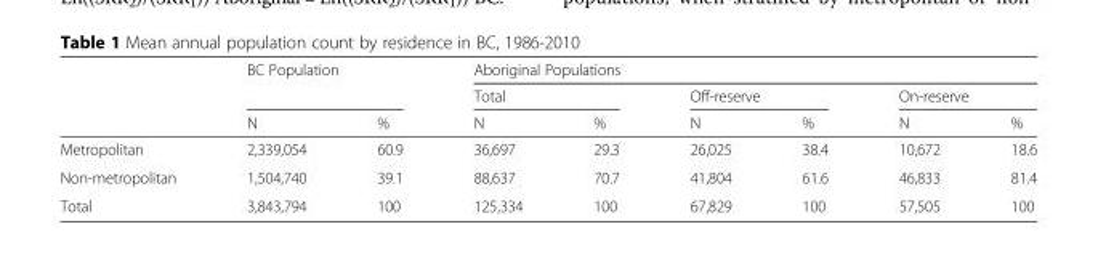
<table><thead><tr><td rowspan="3"></td><td rowspan="2" colspan="2">BC Population</td><td colspan="6">Aboriginal Populations</td></tr><tr><td colspan="2">Total</td><td colspan="2">Off-reserve</td><td colspan="2">On-reserve</td></tr><tr><td>N</td><td>%</td><td>N</td><td>%</td><td>N</td><td>%</td><td>N</td><td>%</td></tr></thead><tbody><tr><td>Metropolitan</td><td>2,339,054</td><td>60.9</td><td>36,697</td><td>29.3</td><td>26,025</td><td>38.4</td><td>10,672</td><td>18.6</td></tr><tr><td>Non-metropolitan</td><td>1,504,740</td><td>39.1</td><td>88,637</td><td>70.7</td><td>41,804</td><td>61.6</td><td>46,833</td><td>81.4</td></tr><tr><td>Total</td><td>3,843,794</td><td>100</td><td>125,334</td><td>100</td><td>67,829</td><td>100</td><td>57,505</td><td>100</td></tr></tbody></table>